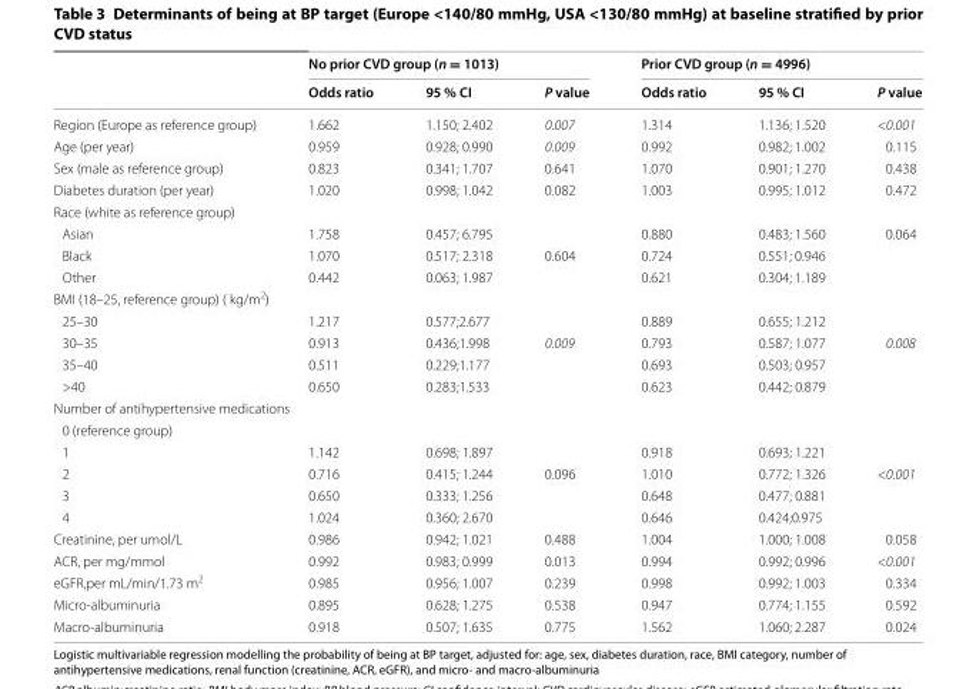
<table><thead><tr><td rowspan="2"></td><td colspan="3">No prior CVD group (n = 1013)</td><td colspan="3">Prior CVD group (n = 4996)</td></tr><tr><td>Odds ratio</td><td>95 % CI</td><td>P value</td><td>Odds ratio</td><td>95 % CI</td><td>P value</td></tr></thead><tbody><tr><td>Region (Europe as reference group)</td><td>1.662</td><td>1.150; 2.402</td><td>0.007</td><td>1.314</td><td>1.136; 1.520</td><td>&lt;0.001</td></tr><tr><td>Age (per year)</td><td>0.959</td><td>0.928; 0.990</td><td>0.009</td><td>0.992</td><td>0.982; 1.002</td><td>0.115</td></tr><tr><td>Sex (male as reference group)</td><td>0.823</td><td>0.341; 1.707</td><td>0.641</td><td>1.070</td><td>0.901; 1.270</td><td>0.438</td></tr><tr><td>Diabetes duration (per year)</td><td>1.020</td><td>0.998; 1.042</td><td>0.082</td><td>1.003</td><td>0.995; 1.012</td><td>0.472</td></tr><tr><td colspan="7">Race (white as reference group)</td></tr><tr><td>Asian</td><td>1.758</td><td>0.457; 6.795</td><td></td><td>0.880</td><td>0.483; 1.560</td><td>0.064</td></tr><tr><td>Black</td><td>1.070</td><td>0.517; 2.318</td><td>0.604</td><td>0.724</td><td>0.551; 0.946</td><td></td></tr><tr><td>Other</td><td>0.442</td><td>0.063; 1.987</td><td></td><td>0.621</td><td>0.304; 1.189</td><td></td></tr><tr><td colspan="7">BMI (18–25, reference group) ( kg/m<sup>2</sup>)</td></tr><tr><td>25–30</td><td>1.217</td><td>0.577;2.677</td><td></td><td>0.889</td><td>0.655; 1.212</td><td></td></tr><tr><td>30–35</td><td>0.913</td><td>0.436;1.998</td><td>0.009</td><td>0.793</td><td>0.587; 1.077</td><td>0.008</td></tr><tr><td>35–40</td><td>0.511</td><td>0.229;1.177</td><td></td><td>0.693</td><td>0.503; 0.957</td><td></td></tr><tr><td>&gt;40</td><td>0.650</td><td>0.283;1.533</td><td></td><td>0.623</td><td>0.442; 0.879</td><td></td></tr><tr><td colspan="7">Number of antihypertensive medications</td></tr><tr><td colspan="7">0 (reference group)</td></tr><tr><td>1</td><td>1.142</td><td>0.698; 1.897</td><td></td><td>0.918</td><td>0.693; 1.221</td><td></td></tr><tr><td>2</td><td>0.716</td><td>0.415; 1.244</td><td>0.096</td><td>1.010</td><td>0.772; 1.326</td><td>&lt;0.001</td></tr><tr><td>3</td><td>0.650</td><td>0.333; 1.256</td><td></td><td>0.648</td><td>0.477; 0.881</td><td></td></tr><tr><td>4</td><td>1.024</td><td>0.360; 2.670</td><td></td><td>0.646</td><td>0.424;0.975</td><td></td></tr><tr><td>Creatinine, per umol/L</td><td>0.986</td><td>0.942; 1.021</td><td>0.488</td><td>1.004</td><td>1.000; 1.008</td><td>0.058</td></tr><tr><td>ACR, per mg/mmol</td><td>0.992</td><td>0.983; 0.999</td><td>0.013</td><td>0.994</td><td>0.992; 0.996</td><td>&lt;0.001</td></tr><tr><td>eGFR,per mL/min/1.73 m<sup>2</sup></td><td>0.985</td><td>0.956; 1.007</td><td>0.239</td><td>0.998</td><td>0.992; 1.003</td><td>0.334</td></tr><tr><td>Micro-albuminuria</td><td>0.895</td><td>0.628; 1.275</td><td>0.538</td><td>0.947</td><td>0.774; 1.155</td><td>0.592</td></tr><tr><td>Macro-albuminuria</td><td>0.918</td><td>0.507; 1.635</td><td>0.775</td><td>1.562</td><td>1.060; 2.287</td><td>0.024</td></tr></tbody></table>